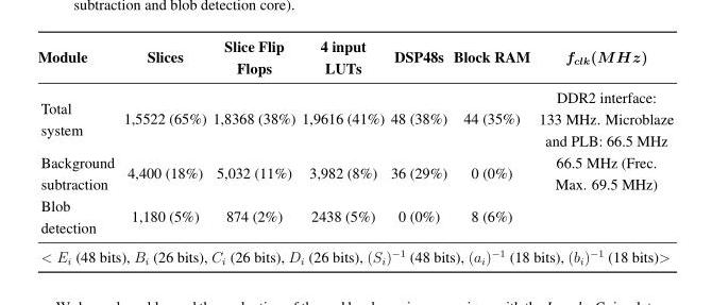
<table><thead><tr><td>Module</td><td>Slices</td><td>Slice Flip Flops</td><td>4 input LUTs</td><td>DSP48s</td><td>Block RAM</td><td>f<sub>clk</sub>(MHz)</td></tr></thead><tbody><tr><td>Total system</td><td>1,5522 (65%)</td><td>1,8368 (38%)</td><td>1,9616 (41%)</td><td>48 (38%)</td><td>44 (35%)</td><td>DDR2 interface: 133 MHz. Microblaze and PLB: 66.5 MHz</td></tr><tr><td>Background subtraction</td><td>4,400 (18%)</td><td>5,032 (11%)</td><td>3,982 (8%)</td><td>36 (29%)</td><td>0 (0%)</td><td>66.5 MHz (Frec. Max. 69.5 MHz)</td></tr><tr><td>Blob detection</td><td>1,180 (5%)</td><td>874 (2%)</td><td>2438 (5%)</td><td>0 (0%)</td><td>8 (6%)</td><td></td></tr><tr><td colspan="7">&lt; E<sub>i</sub> (48 bits), B<sub>i</sub> (26 bits), C<sub>i</sub> (26 bits), D<sub>i</sub> (26 bits), (S<sub>i</sub>)<sup>−1</sup> (48 bits), (a<sub>i</sub>)<sup>−1</sup> (18 bits), (b<sub>i</sub>)<sup>−1</sup> (18 bits)&gt;</td></tr></tbody></table>